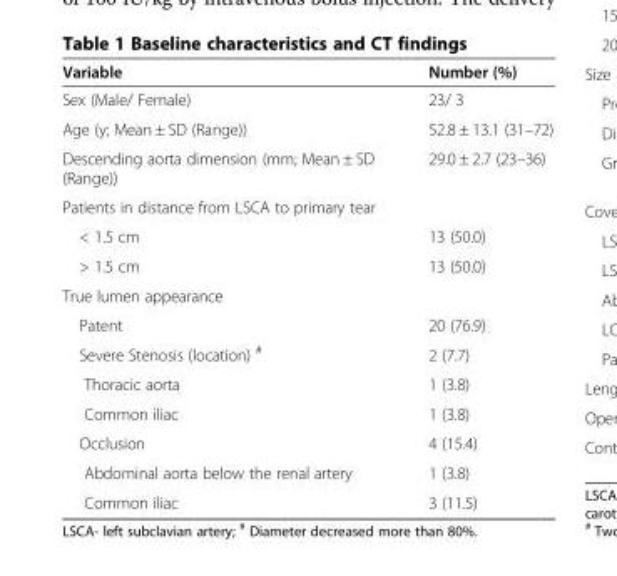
<table><thead><tr><td>Variable</td><td>Number (%)</td></tr></thead><tbody><tr><td>Sex (Male/ Female)</td><td>23/ 3</td></tr><tr><td>Age (y; Mean ± SD (Range))</td><td>52.8 ± 13.1 (31–72)</td></tr><tr><td>Descending aorta dimension (mm; Mean ± SD (Range))</td><td>29.0 ± 2.7 (23–36)</td></tr><tr><td colspan="2">Patients in distance from LSCA to primary tear</td></tr><tr><td>&lt; 1.5 cm</td><td>13 (50.0)</td></tr><tr><td>&gt; 1.5 cm</td><td>13 (50.0)</td></tr><tr><td colspan="2">True lumen appearance</td></tr><tr><td>Patent</td><td>20 (76.9)</td></tr><tr><td>Severe Stenosis (location) <sup>#</sup></td><td>2 (7.7)</td></tr><tr><td>Thoracic aorta</td><td>1 (3.8)</td></tr><tr><td>Common iliac</td><td>1 (3.8)</td></tr><tr><td>Occlusion</td><td>4 (15.4)</td></tr><tr><td>Abdominal aorta below the renal artery</td><td>1 (3.8)</td></tr><tr><td>Common iliac</td><td>3 (11.5)</td></tr></tbody></table>